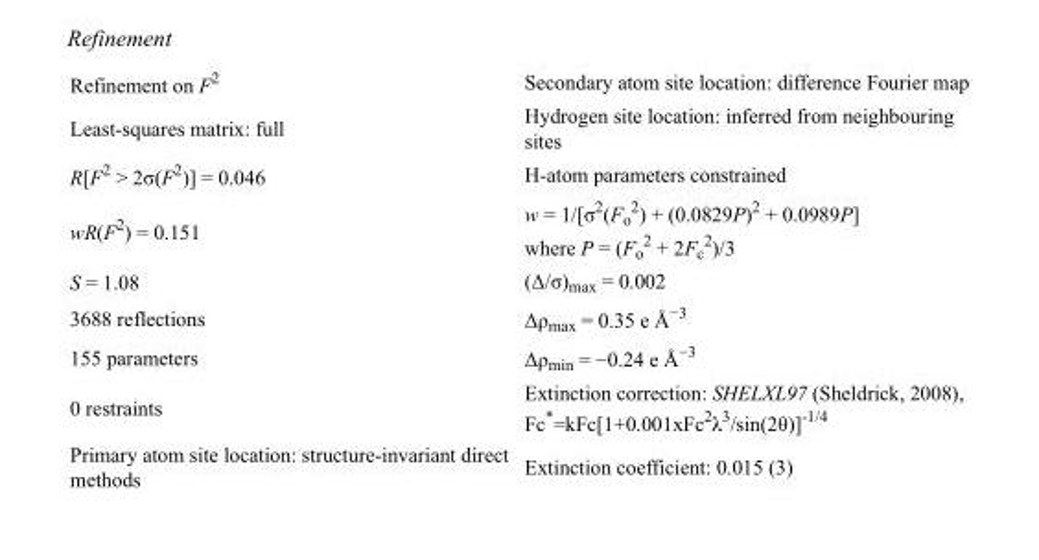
<table><tbody><tr><td>Refinement on F<sup>2</sup></td><td>Secondary atom site location: difference Fourier map</td></tr><tr><td>Least-squares matrix: full</td><td>Hydrogen site location: inferred from neighbouring sites</td></tr><tr><td>R[F<sup>2</sup> &gt; 2σ(F<sup>2</sup>)] = 0.046</td><td>H-atom parameters constrained</td></tr><tr><td>wR(F<sup>2</sup>) = 0.151</td><td>w = 1/[σ<sup>2</sup>(F<sub>o</sub> <sup>2</sup>) + (0.0829P)<sup>2</sup> + 0.0989P] where P = (F<sub>o</sub> <sup>2</sup> + 2F<sub>c</sub> <sup>2</sup>)/3</td></tr><tr><td>S = 1.08</td><td>(Δ/σ)<sub>max</sub> = 0.002</td></tr><tr><td>3688 reflections</td><td>Δρ<sub>max</sub> = 0.35 e Å<sup>−3</sup></td></tr><tr><td>155 parameters</td><td>Δρ<sub>min</sub> = −0.24 e Å<sup>−3</sup></td></tr><tr><td>0 restraints</td><td>Extinction correction: SHELXL97 (Sheldrick, 2008), Fc*=kFc[1+0.001xFc<sup>2</sup>λ<sup>3</sup>/sin(2θ)]<sup>-1/4</sup></td></tr><tr><td>Primary atom site location: structure-invariant direct methods</td><td>Extinction coefficient: 0.015 (3)</td></tr></tbody></table>